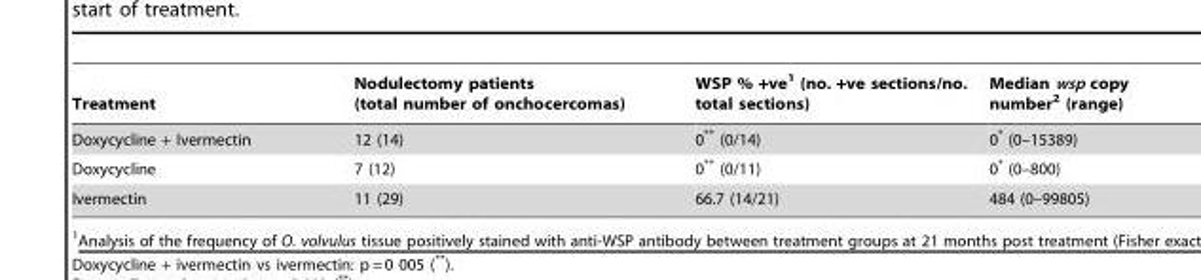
<table><thead><tr><td>Treatment</td><td>Nodulectomy patients (total number of onchocercomas)</td><td>WSP % +ve<sup>1</sup> (no. +ve sections/no. total sections)</td><td>Median wsp copy number<sup>2</sup> (range)</td></tr></thead><tbody><tr><td>Doxycycline + Ivermectin</td><td>12 (14)</td><td>0** (0/14)</td><td>0* (0–15389)</td></tr><tr><td>Doxycycline</td><td>7 (12)</td><td>0** (0/11)</td><td>0* (0–800)</td></tr><tr><td>Ivermectin</td><td>11 (29)</td><td>66.7 (14/21)</td><td>484 (0–99805)</td></tr></tbody></table>